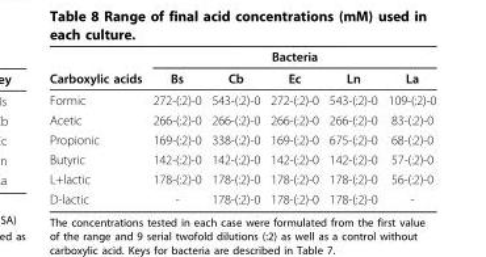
<table><thead><tr><td rowspan="2">Carboxylic acids</td><td colspan="5">Bacteria</td></tr><tr><td>Bs</td><td>Cb</td><td>Ec</td><td>Ln</td><td>La</td></tr></thead><tbody><tr><td>Formic</td><td>272-(:2)-0</td><td>543-(:2)-0</td><td>272-(:2)-0</td><td>543-(:2)-0</td><td>109-(:2)-0</td></tr><tr><td>Acetic</td><td>266-(:2)-0</td><td>266-(:2)-0</td><td>266-(:2)-0</td><td>266-(:2)-0</td><td>83-(:2)-0</td></tr><tr><td>Propionic</td><td>169-(:2)-0</td><td>338-(:2)-0</td><td>169-(:2)-0</td><td>675-(:2)-0</td><td>68-(:2)-0</td></tr><tr><td>Butyric</td><td>142-(:2)-0</td><td>142-(:2)-0</td><td>142-(:2)-0</td><td>142-(:2)-0</td><td>57-(:2)-0</td></tr><tr><td>L+lactic</td><td>178-(:2)-0</td><td>178-(:2)-0</td><td>178-(:2)-0</td><td>178-(:2)-0</td><td>56-(:2)-0</td></tr><tr><td>D-lactic</td><td>-</td><td>178-(:2)-0</td><td>178-(:2)-0</td><td>178-(:2)-0</td><td>-</td></tr></tbody></table>